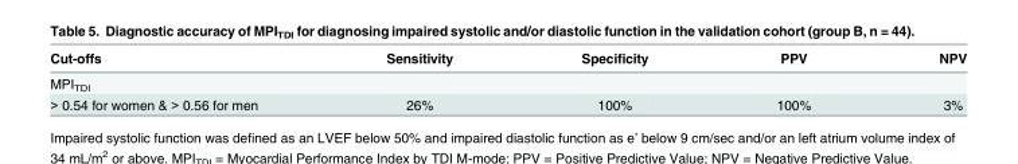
<table><thead><tr><td>Cut-offs</td><td>Sensitivity</td><td>Specificity</td><td>PPV</td><td>NPV</td></tr></thead><tbody><tr><td colspan="5">MPI<sub>TDI</sub></td></tr><tr><td>&gt; 0.54 for women &amp; &gt; 0.56 for men</td><td>26%</td><td>100%</td><td>100%</td><td>3%</td></tr></tbody></table>